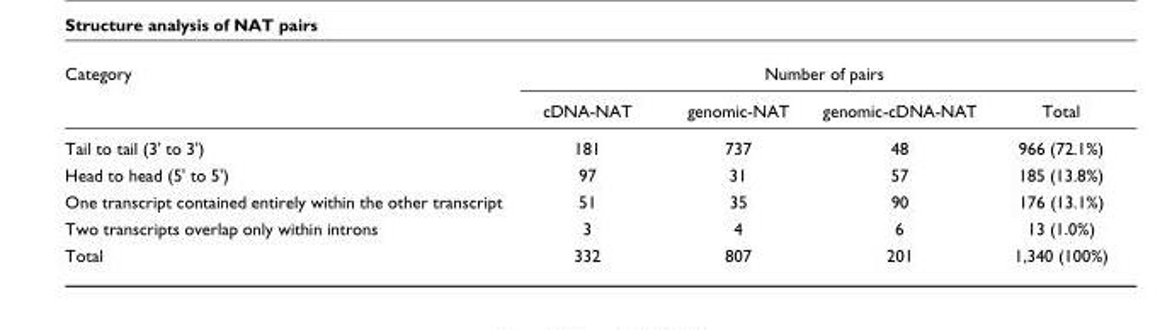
<table><thead><tr><td rowspan="2">Category</td><td colspan="4">Number of pairs</td></tr><tr><td>cDNA-NAT</td><td>genomic-NAT</td><td>genomic-cDNA-NAT</td><td>Total</td></tr></thead><tbody><tr><td>Tail to tail (3&#x27; to 3&#x27;)</td><td>181</td><td>737</td><td>48</td><td>966 (72.1%)</td></tr><tr><td>Head to head (5&#x27; to 5&#x27;)</td><td>97</td><td>31</td><td>57</td><td>185 (13.8%)</td></tr><tr><td>One transcript contained entirely within the other transcript</td><td>51</td><td>35</td><td>90</td><td>176 (13.1%)</td></tr><tr><td>Two transcripts overlap only within introns</td><td>3</td><td>4</td><td>6</td><td>13 (1.0%)</td></tr><tr><td>Total</td><td>332</td><td>807</td><td>201</td><td>1,340 (100%)</td></tr></tbody></table>